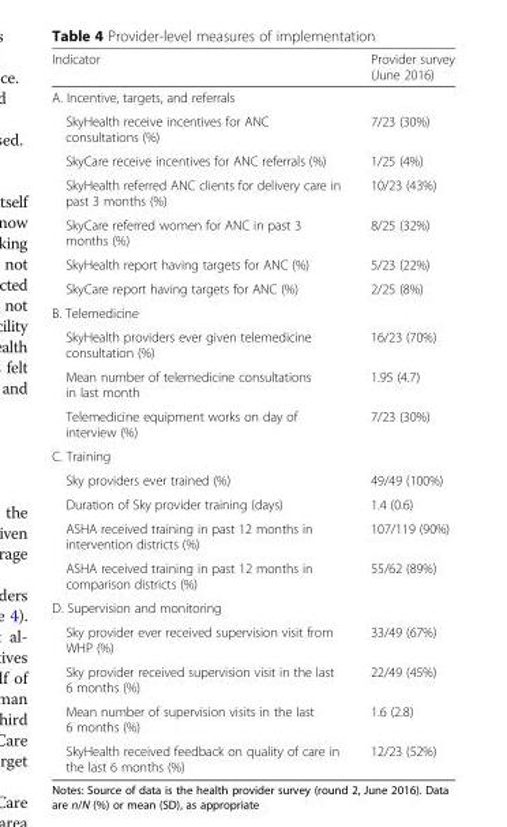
<table><thead><tr><td>Indicator</td><td>Provider survey (June 2016)</td></tr></thead><tbody><tr><td colspan="2">A. Incentive, targets, and referrals</td></tr><tr><td>SkyHealth receive incentives for ANC consultations (%)</td><td>7/23 (30%)</td></tr><tr><td>SkyCare receive incentives for ANC referrals (%)</td><td>1/25 (4%)</td></tr><tr><td>SkyHealth referred ANC clients for delivery care in past 3 months (%)</td><td>10/23 (43%)</td></tr><tr><td>SkyCare referred women for ANC in past 3 months (%)</td><td>8/25 (32%)</td></tr><tr><td>SkyHealth report having targets for ANC (%)</td><td>5/23 (22%)</td></tr><tr><td>SkyCare report having targets for ANC (%)</td><td>2/25 (8%)</td></tr><tr><td colspan="2">B. Telemedicine</td></tr><tr><td>SkyHealth providers ever given telemedicine consultation (%)</td><td>16/23 (70%)</td></tr><tr><td>Mean number of telemedicine consultations in last month</td><td>1.95 (4.7)</td></tr><tr><td>Telemedicine equipment works on day of interview (%)</td><td>7/23 (30%)</td></tr><tr><td colspan="2">C. Training</td></tr><tr><td>Sky providers ever trained (%)</td><td>49/49 (100%)</td></tr><tr><td>Duration of Sky provider training (days)</td><td>1.4 (0.6)</td></tr><tr><td>ASHA received training in past 12 months in intervention districts (%)</td><td>107/119 (90%)</td></tr><tr><td>ASHA received training in past 12 months in comparison districts (%)</td><td>55/62 (89%)</td></tr><tr><td colspan="2">D. Supervision and monitoring</td></tr><tr><td>Sky provider ever received supervision visit from WHP (%)</td><td>33/49 (67%)</td></tr><tr><td>Sky provider received supervision visit in the last 6 months (%)</td><td>22/49 (45%)</td></tr><tr><td>Mean number of supervision visits in the last 6 months (%)</td><td>1.6 (2.8)</td></tr><tr><td>SkyHealth received feedback on quality of care in the last 6 months (%)</td><td>12/23 (52%)</td></tr></tbody></table>